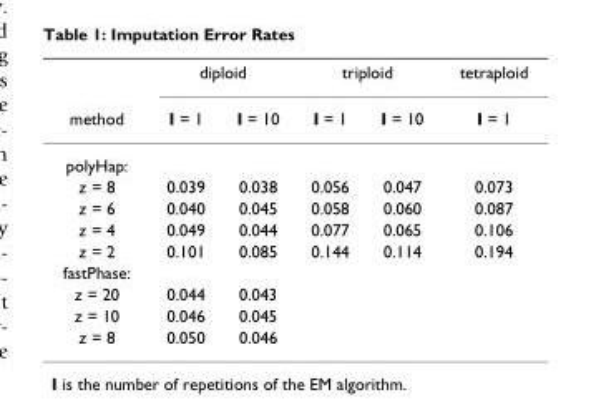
<table><thead><tr><td rowspan="2">method</td><td colspan="2">diploid</td><td colspan="2">triploid</td><td rowspan="2">tetraploid I = 1</td></tr><tr><td>I = 1</td><td>I = 10</td><td>I = 1</td><td>I = 10</td></tr></thead><tbody><tr><td colspan="6">polyHap:</td></tr><tr><td>z = 8</td><td>0.039</td><td>0.038</td><td>0.056</td><td>0.047</td><td>0.073</td></tr><tr><td>z = 6</td><td>0.040</td><td>0.045</td><td>0.058</td><td>0.060</td><td>0.087</td></tr><tr><td>z = 4</td><td>0.049</td><td>0.044</td><td>0.077</td><td>0.065</td><td>0.106</td></tr><tr><td>z = 2</td><td>0.101</td><td>0.085</td><td>0.144</td><td>0.114</td><td>0.194</td></tr><tr><td colspan="6">fastPhase:</td></tr><tr><td>z = 20</td><td>0.044</td><td>0.043</td><td></td><td></td><td></td></tr><tr><td>z = 10</td><td>0.046</td><td>0.045</td><td></td><td></td><td></td></tr><tr><td>z = 8</td><td>0.050</td><td>0.046</td><td></td><td></td><td></td></tr></tbody></table>